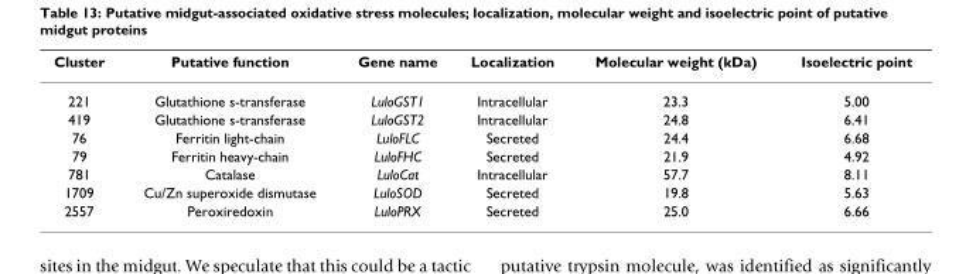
<table><thead><tr><td>Cluster</td><td>Putative function</td><td>Gene name</td><td>Localization</td><td>Molecular weight (kDa)</td><td>Isoelectric point</td></tr></thead><tbody><tr><td>221</td><td>Glutathione s-transferase</td><td>LuloGST1</td><td>Intracellular</td><td>23.3</td><td>5.00</td></tr><tr><td>419</td><td>Glutathione s-transferase</td><td>LuloGST2</td><td>Intracellular</td><td>24.8</td><td>6.41</td></tr><tr><td>76</td><td>Ferritin light-chain</td><td>LuloFLC</td><td>Secreted</td><td>24.4</td><td>6.68</td></tr><tr><td>79</td><td>Ferritin heavy-chain</td><td>LuloFHC</td><td>Secreted</td><td>21.9</td><td>4.92</td></tr><tr><td>781</td><td>Catalase</td><td>LuloCat</td><td>Intracellular</td><td>57.7</td><td>8.11</td></tr><tr><td>1709</td><td>Cu/Zn superoxide dismutase</td><td>LuloSOD</td><td>Secreted</td><td>19.8</td><td>5.63</td></tr><tr><td>2557</td><td>Peroxiredoxin</td><td>LuloPRX</td><td>Secreted</td><td>25.0</td><td>6.66</td></tr></tbody></table>